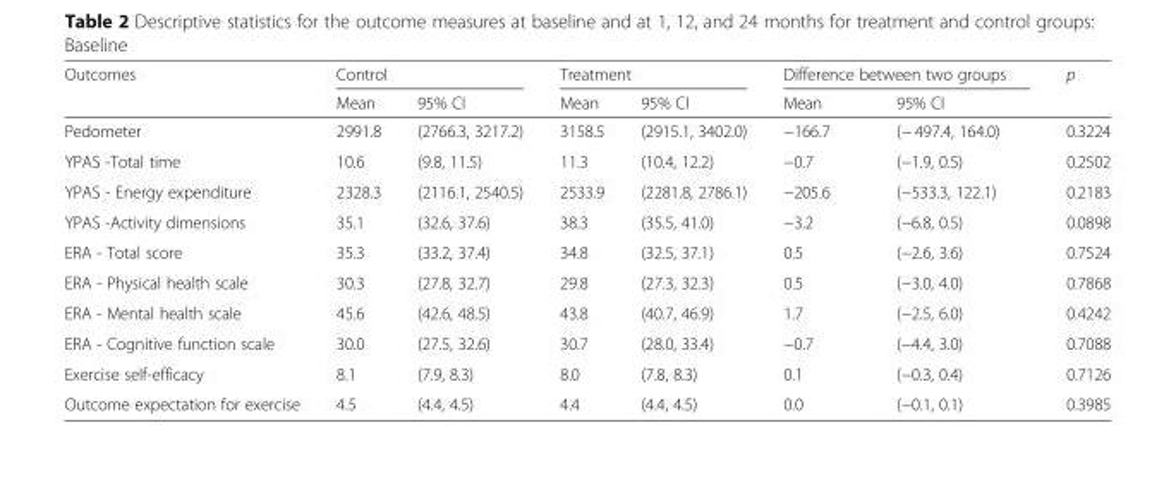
<table><thead><tr><td rowspan="2">Outcomes</td><td colspan="2">Control</td><td colspan="2">Treatment</td><td colspan="2">Difference between two groups</td><td rowspan="2">p</td></tr><tr><td>Mean</td><td>95% CI</td><td>Mean</td><td>95% CI</td><td>Mean</td><td>95% CI</td></tr></thead><tbody><tr><td>Pedometer</td><td>2991.8</td><td>(2766.3, 3217.2)</td><td>3158.5</td><td>(2915.1, 3402.0)</td><td>−166.7</td><td>(− 497.4, 164.0)</td><td>0.3224</td></tr><tr><td>YPAS -Total time</td><td>10.6</td><td>(9.8, 11.5)</td><td>11.3</td><td>(10.4, 12.2)</td><td>−0.7</td><td>(−1.9, 0.5)</td><td>0.2502</td></tr><tr><td>YPAS - Energy expenditure</td><td>2328.3</td><td>(2116.1, 2540.5)</td><td>2533.9</td><td>(2281.8, 2786.1)</td><td>−205.6</td><td>(−533.3, 122.1)</td><td>0.2183</td></tr><tr><td>YPAS -Activity dimensions</td><td>35.1</td><td>(32.6, 37.6)</td><td>38.3</td><td>(35.5, 41.0)</td><td>−3.2</td><td>(−6.8, 0.5)</td><td>0.0898</td></tr><tr><td>ERA - Total score</td><td>35.3</td><td>(33.2, 37.4)</td><td>34.8</td><td>(32.5, 37.1)</td><td>0.5</td><td>(−2.6, 3.6)</td><td>0.7524</td></tr><tr><td>ERA - Physical health scale</td><td>30.3</td><td>(27.8, 32.7)</td><td>29.8</td><td>(27.3, 32.3)</td><td>0.5</td><td>(−3.0, 4.0)</td><td>0.7868</td></tr><tr><td>ERA - Mental health scale</td><td>45.6</td><td>(42.6, 48.5)</td><td>43.8</td><td>(40.7, 46.9)</td><td>1.7</td><td>(−2.5, 6.0)</td><td>0.4242</td></tr><tr><td>ERA - Cognitive function scale</td><td>30.0</td><td>(27.5, 32.6)</td><td>30.7</td><td>(28.0, 33.4)</td><td>−0.7</td><td>(−4.4, 3.0)</td><td>0.7088</td></tr><tr><td>Exercise self-efficacy</td><td>8.1</td><td>(7.9, 8.3)</td><td>8.0</td><td>(7.8, 8.3)</td><td>0.1</td><td>(−0.3, 0.4)</td><td>0.7126</td></tr><tr><td>Outcome expectation for exercise</td><td>4.5</td><td>(4.4, 4.5)</td><td>4.4</td><td>(4.4, 4.5)</td><td>0.0</td><td>(−0.1, 0.1)</td><td>0.3985</td></tr></tbody></table>